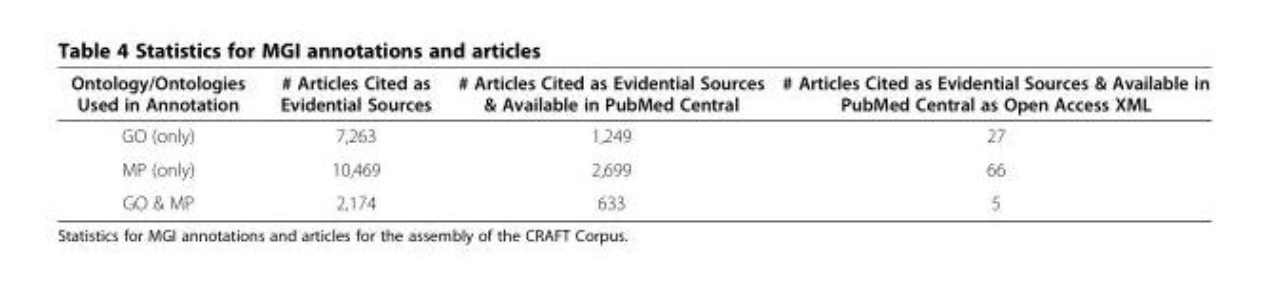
<table><thead><tr><td>Ontology/Ontologies Used in Annotation</td><td># Articles Cited as Evidential Sources</td><td># Articles Cited as Evidential Sources &amp; Available in PubMed Central</td><td># Articles Cited as Evidential Sources &amp; Available in PubMed Central as Open Access XML</td></tr></thead><tbody><tr><td>GO (only)</td><td>7,263</td><td>1,249</td><td>27</td></tr><tr><td>MP (only)</td><td>10,469</td><td>2,699</td><td>66</td></tr><tr><td>GO &amp; MP</td><td>2,174</td><td>633</td><td>5</td></tr></tbody></table>